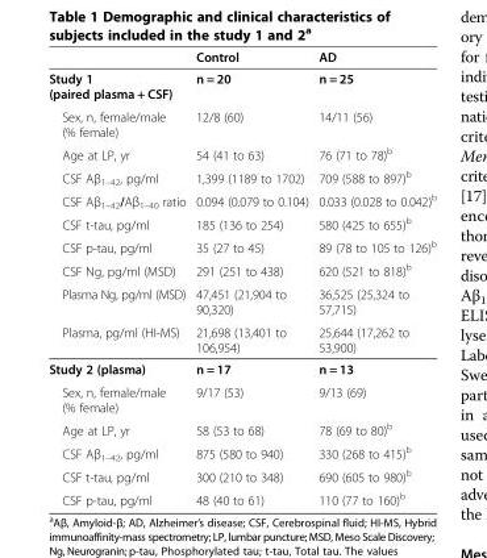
<table><thead><tr><td></td><td>Control</td><td>AD</td></tr></thead><tbody><tr><td>Study 1 (paired plasma + CSF)</td><td>n = 20</td><td>n = 25</td></tr><tr><td>Sex, n, female/male (% female)</td><td>12/8 (60)</td><td>14/11 (56)</td></tr><tr><td>Age at LP, yr</td><td>54 (41 to 63)</td><td>76 (71 to 78)<sup>b</sup></td></tr><tr><td>CSF Aβ<sub>1–42</sub>, pg/ml</td><td>1,399 (1189 to 1702)</td><td>709 (588 to 897)<sup>b</sup></td></tr><tr><td>CSF Aβ<sub>1–42</sub>/Aβ<sub>1–40</sub> ratio</td><td>0.094 (0.079 to 0.104)</td><td>0.033 (0.028 to 0.042)<sup>b</sup></td></tr><tr><td>CSF t-tau, pg/ml</td><td>185 (136 to 254)</td><td>580 (425 to 655)<sup>b</sup></td></tr><tr><td>CSF p-tau, pg/ml</td><td>35 (27 to 45)</td><td>89 (78 to 105 to 126)<sup>b</sup></td></tr><tr><td>CSF Ng, pg/ml (MSD)</td><td>291 (251 to 438)</td><td>620 (521 to 818)<sup>b</sup></td></tr><tr><td>Plasma Ng, pg/ml (MSD)</td><td>47,451 (21,904 to 90,320)</td><td>36,525 (25,324 to 57,715)</td></tr><tr><td>Plasma, pg/ml (HI-MS)</td><td>21,698 (13,401 to 106,954)</td><td>25,644 (17,262 to 53,900)</td></tr><tr><td>Study 2 (plasma)</td><td>n = 17</td><td>n = 13</td></tr><tr><td>Sex, n, female/male (% female)</td><td>9/17 (53)</td><td>9/13 (69)</td></tr><tr><td>Age at LP, yr</td><td>58 (53 to 68)</td><td>78 (69 to 80)<sup>b</sup></td></tr><tr><td>CSF Aβ<sub>1–42</sub>, pg/ml</td><td>875 (580 to 940)</td><td>330 (268 to 415)<sup>b</sup></td></tr><tr><td>CSF t-tau, pg/ml</td><td>300 (210 to 348)</td><td>690 (605 to 980)<sup>b</sup></td></tr><tr><td>CSF p-tau, pg/ml</td><td>48 (40 to 61)</td><td>110 (77 to 160)<sup>b</sup></td></tr></tbody></table>